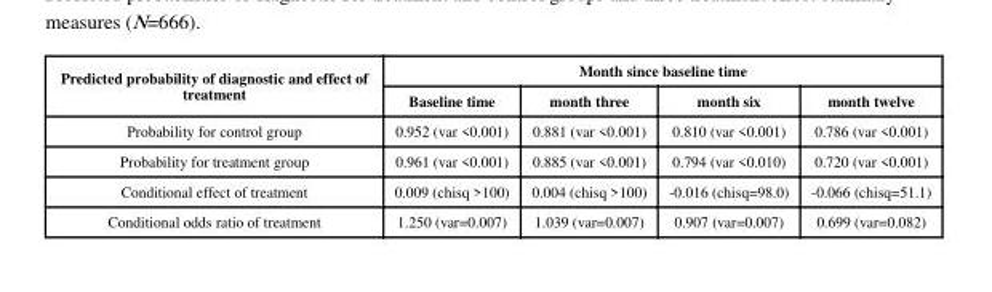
<table><thead><tr><td rowspan="2">Predicted probability of diagnostic and effect of treatment</td><td colspan="4">Month since baseline time</td></tr><tr><td>Baseline time</td><td>month three</td><td>month six</td><td>month twelve</td></tr></thead><tbody><tr><td>Probability for control group</td><td>0.952 (var &lt;0.001)</td><td>0.881 (var &lt;0.001)</td><td>0.810 (var &lt;0.001)</td><td>0.786 (var &lt;0.001)</td></tr><tr><td>Probability for treatment group</td><td>0.961 (var &lt;0.001)</td><td>0.885 (var &lt;0.001)</td><td>0.794 (var &lt;0.010)</td><td>0.720 (var &lt;0.001)</td></tr><tr><td>Conditional effect of treatment</td><td>0.009 (chisq &gt;100)</td><td>0.004 (chisq &gt;100)</td><td>-0.016 (chisq=98.0)</td><td>-0.066 (chisq=51.1)</td></tr><tr><td>Conditional odds ratio of treatment</td><td>1.250 (var=0.007)</td><td>1.039 (var=0.007)</td><td>0.907 (var=0.007)</td><td>0.699 (var=0.082)</td></tr></tbody></table>